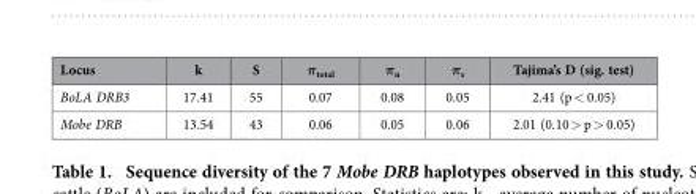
<table><thead><tr><td>Locus</td><td>k</td><td>S</td><td>π<sub>total</sub></td><td>π<sub>n</sub></td><td>π<sub>s</sub></td><td>Tajima’s D (sig. test)</td></tr></thead><tbody><tr><td>BoLA DRB3</td><td>17.41</td><td>55</td><td>0.07</td><td>0.08</td><td>0.05</td><td>2.41 (p &lt; 0.05)</td></tr><tr><td>Mobe DRB</td><td>13.54</td><td>43</td><td>0.06</td><td>0.05</td><td>0.06</td><td>2.01 (0.10 &gt; p &gt; 0.05)</td></tr></tbody></table>